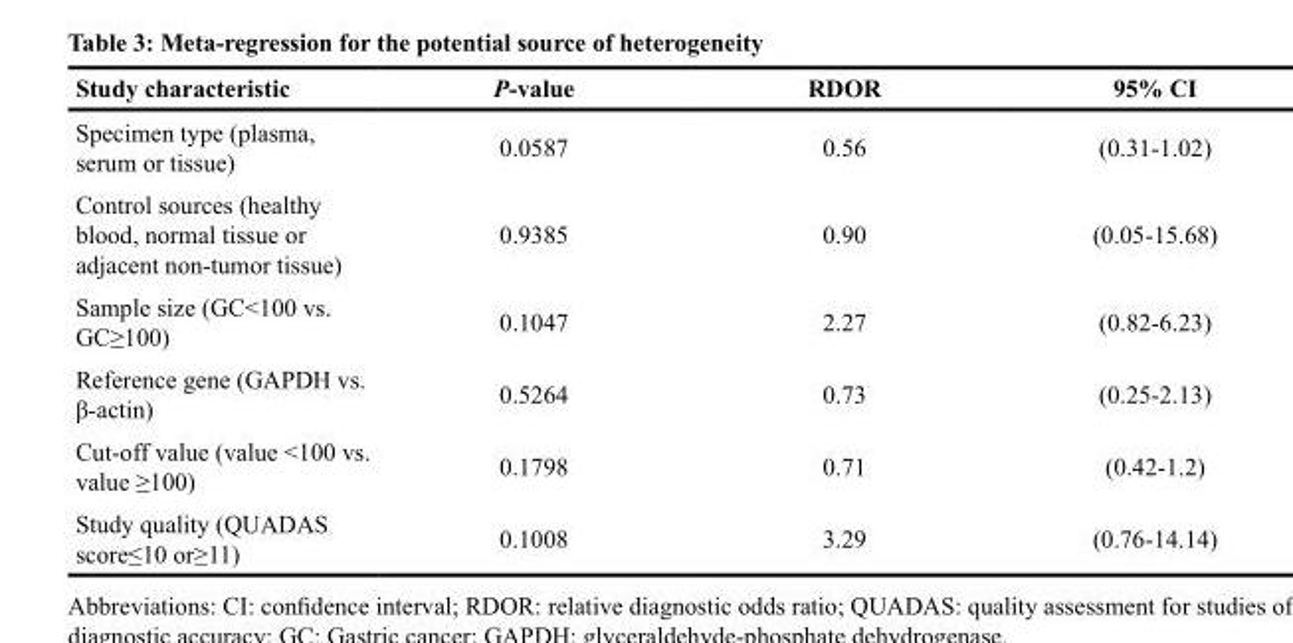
<table><thead><tr><td>Study characteristic</td><td>P-value</td><td>RDOR</td><td>95% CI</td></tr></thead><tbody><tr><td>Specimen type (plasma, serum or tissue)</td><td>0.0587</td><td>0.56</td><td>(0.31-1.02)</td></tr><tr><td>Control sources (healthy blood, normal tissue or adjacent non-tumor tissue)</td><td>0.9385</td><td>0.90</td><td>(0.05-15.68)</td></tr><tr><td>Sample size (GC&lt;100 vs. GC≥100)</td><td>0.1047</td><td>2.27</td><td>(0.82-6.23)</td></tr><tr><td>Reference gene (GAPDH vs. β-actin)</td><td>0.5264</td><td>0.73</td><td>(0.25-2.13)</td></tr><tr><td>Cut-off value (value &lt;100 vs. value ≥100)</td><td>0.1798</td><td>0.71</td><td>(0.42-1.2)</td></tr><tr><td>Study quality (QUADAS score≤10 or≥11)</td><td>0.1008</td><td>3.29</td><td>(0.76-14.14)</td></tr></tbody></table>